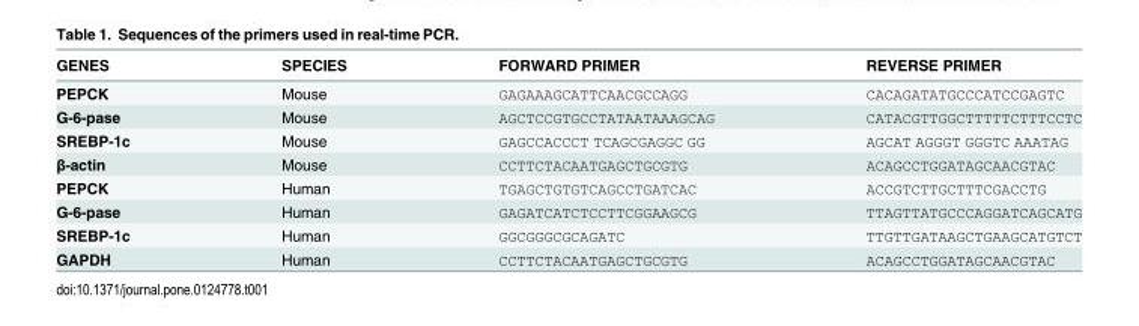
<table><thead><tr><td>GENES</td><td>SPECIES</td><td>FORWARD PRIMER</td><td>REVERSE PRIMER</td></tr></thead><tbody><tr><td>PEPCK</td><td>Mouse</td><td>GAGAAAGCATTCAACGCCAGG</td><td>CACAGATATGCCCATCCGAGTC</td></tr><tr><td>G-6-pase</td><td>Mouse</td><td>AGCTCCGTGCCTATAATAAAGCAG</td><td>CATACGTTGGCTTTTTCTTTCCTC</td></tr><tr><td>SREBP-1c</td><td>Mouse</td><td>GAGCCACCCT TCAGCGAGGC GG</td><td>AGCAT AGGGT GGGTC AAATAG</td></tr><tr><td>β-actin</td><td>Mouse</td><td>CCTTCTACAATGAGCTGCGTG</td><td>ACAGCCTGGATAGCAACGTAC</td></tr><tr><td>PEPCK</td><td>Human</td><td>TGAGCTGTGTCAGCCTGATCAC</td><td>ACCGTCTTGCTTTCGACCTG</td></tr><tr><td>G-6-pase</td><td>Human</td><td>GAGATCATCTCCTTCGGAAGCG</td><td>TTAGTTATGCCCAGGATCAGCATG</td></tr><tr><td>SREBP-1c</td><td>Human</td><td>GGCGGGCGCAGATC</td><td>TTGTTGATAAGCTGAAGCATGTCT</td></tr><tr><td>GAPDH</td><td>Human</td><td>CCTTCTACAATGAGCTGCGTG</td><td>ACAGCCTGGATAGCAACGTAC</td></tr></tbody></table>